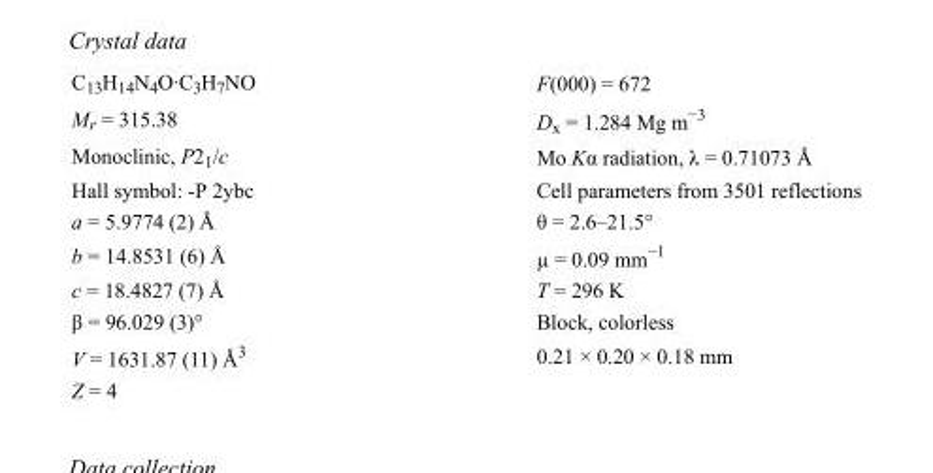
<table><tbody><tr><td>C<sub>13</sub>H<sub>14</sub>N<sub>4</sub>O·C<sub>3</sub>H<sub>7</sub>NO</td><td>F(000) = 672</td></tr><tr><td>M<sub>r</sub> = 315.38</td><td>D<sub>x</sub> = 1.284 Mg m<sup>−3</sup></td></tr><tr><td>Monoclinic, P2<sub>1</sub>/c</td><td>Mo Kα radiation, λ = 0.71073 Å</td></tr><tr><td>Hall symbol: -P 2ybc</td><td>Cell parameters from 3501 reflections</td></tr><tr><td>a = 5.9774 (2) Å</td><td>θ = 2.6–21.5°</td></tr><tr><td>b = 14.8531 (6) Å</td><td>µ = 0.09 mm<sup>−1</sup></td></tr><tr><td>c = 18.4827 (7) Å</td><td>T = 296 K</td></tr><tr><td>β = 96.029 (3)°</td><td>Block, colorless</td></tr><tr><td>V = 1631.87 (11) Å<sup>3</sup></td><td>0.21 × 0.20 × 0.18 mm</td></tr><tr><td>Z = 4</td><td></td></tr></tbody></table>